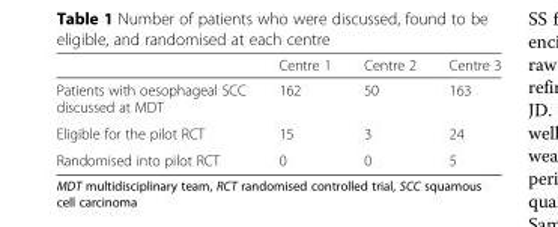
<table><thead><tr><td></td><td>Centre 1</td><td>Centre 2</td><td>Centre 3</td></tr></thead><tbody><tr><td>Patients with oesophageal SCC discussed at MDT</td><td>162</td><td>50</td><td>163</td></tr><tr><td>Eligible for the pilot RCT</td><td>15</td><td>3</td><td>24</td></tr><tr><td>Randomised into pilot RCT</td><td>0</td><td>0</td><td>5</td></tr></tbody></table>